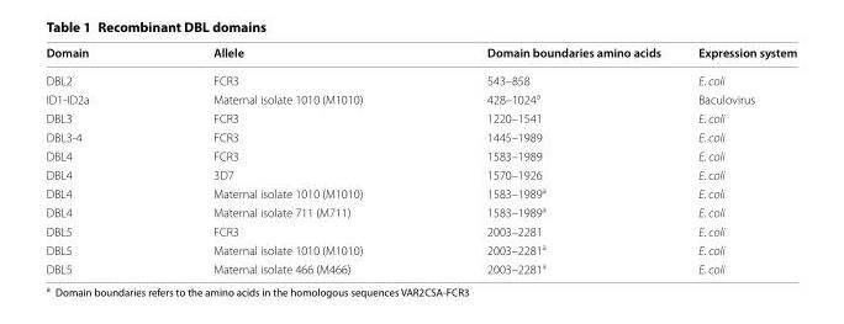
<table><thead><tr><td>Domain</td><td>Allele</td><td>Domain boundaries amino acids</td><td>Expression system</td></tr></thead><tbody><tr><td>DBL2</td><td>FCR3</td><td>543–858</td><td>E. coli</td></tr><tr><td>ID1‑ID2a</td><td>Maternal isolate 1010 (M1010)</td><td>428–1024<sup>a</sup></td><td>Baculovirus</td></tr><tr><td>DBL3</td><td>FCR3</td><td>1220–1541</td><td>E. coli</td></tr><tr><td>DBL3‑4</td><td>FCR3</td><td>1445–1989</td><td>E. coli</td></tr><tr><td>DBL4</td><td>FCR3</td><td>1583–1989</td><td>E. coli</td></tr><tr><td>DBL4</td><td>3D7</td><td>1570–1926</td><td>E. coli</td></tr><tr><td>DBL4</td><td>Maternal isolate 1010 (M1010)</td><td>1583–1989<sup>a</sup></td><td>E. coli</td></tr><tr><td>DBL4</td><td>Maternal isolate 711 (M711)</td><td>1583–1989<sup>a</sup></td><td>E. coli</td></tr><tr><td>DBL5</td><td>FCR3</td><td>2003–2281</td><td>E. coli</td></tr><tr><td>DBL5</td><td>Maternal isolate 1010 (M1010)</td><td>2003–2281<sup>a</sup></td><td>E. coli</td></tr><tr><td>DBL5</td><td>Maternal isolate 466 (M466)</td><td>2003–2281<sup>a</sup></td><td>E. coli</td></tr></tbody></table>